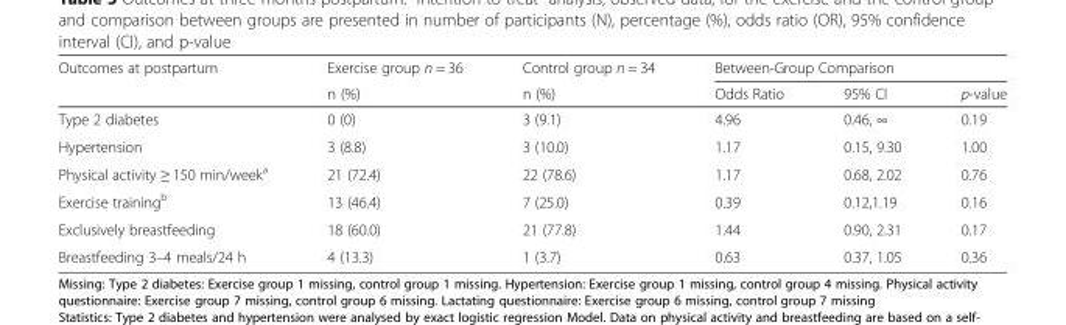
<table><thead><tr><td rowspan="2">Outcomes at postpartum</td><td rowspan="2">Exercise group n = 36 n (%)</td><td rowspan="2">Control group n = 34 n (%)</td><td colspan="3">Between-Group Comparison</td></tr><tr><td>Odds Ratio</td><td>95% CI</td><td>p-value</td></tr></thead><tbody><tr><td>Type 2 diabetes</td><td>0 (0)</td><td>3 (9.1)</td><td>4.96</td><td>0.46, ∞</td><td>0.19</td></tr><tr><td>Hypertension</td><td>3 (8.8)</td><td>3 (10.0)</td><td>1.17</td><td>0.15, 9.30</td><td>1.00</td></tr><tr><td>Physical activity ≥ 150 min/week<sup>a</sup></td><td>21 (72.4)</td><td>22 (78.6)</td><td>1.17</td><td>0.68, 2.02</td><td>0.76</td></tr><tr><td>Exercise training<sup>b</sup></td><td>13 (46.4)</td><td>7 (25.0)</td><td>0.39</td><td>0.12,1.19</td><td>0.16</td></tr><tr><td>Exclusively breastfeeding</td><td>18 (60.0)</td><td>21 (77.8)</td><td>1.44</td><td>0.90, 2.31</td><td>0.17</td></tr><tr><td>Breastfeeding 3–4 meals/24 h</td><td>4 (13.3)</td><td>1 (3.7)</td><td>0.63</td><td>0.37, 1.05</td><td>0.36</td></tr></tbody></table>